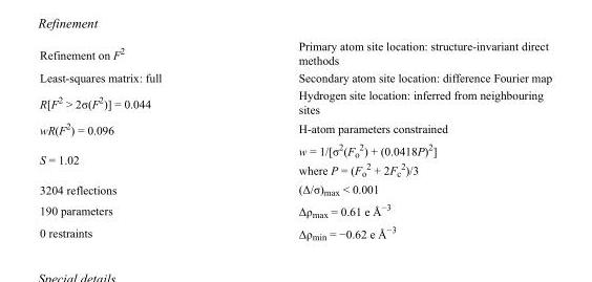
<table><tbody><tr><td>Refinement on F<sup>2</sup></td><td>Primary atom site location: structure-invariant direct methods</td></tr><tr><td>Least-squares matrix: full</td><td>Secondary atom site location: difference Fourier map</td></tr><tr><td>R[F<sup>2</sup> &gt; 2σ(F<sup>2</sup>)] = 0.044</td><td>Hydrogen site location: inferred from neighbouring sites</td></tr><tr><td>wR(F<sup>2</sup>) = 0.096</td><td>H-atom parameters constrained</td></tr><tr><td>S = 1.02</td><td>w = 1/[σ<sup>2</sup>(F<sub>o</sub> <sup>2</sup>) + (0.0418P)<sup>2</sup>] where P = (F<sub>o</sub> <sup>2</sup> + 2F<sub>c</sub> <sup>2</sup>)/3</td></tr><tr><td>3204 reflections</td><td>(Δ/σ)<sub>max</sub> &lt; 0.001</td></tr><tr><td>190 parameters</td><td>Δρ<sub>max</sub> = 0.61 e Å<sup>−3</sup></td></tr><tr><td>0 restraints</td><td>Δρ<sub>min</sub> = −0.62 e Å<sup>−3</sup></td></tr></tbody></table>